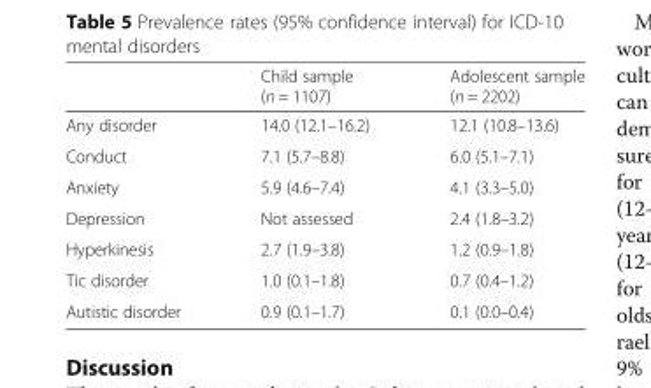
<table><thead><tr><td></td><td>Child sample (n = 1107)</td><td>Adolescent sample (n = 2202)</td></tr></thead><tbody><tr><td>Any disorder</td><td>14.0 (12.1–16.2)</td><td>12.1 (10.8–13.6)</td></tr><tr><td>Conduct</td><td>7.1 (5.7–8.8)</td><td>6.0 (5.1–7.1)</td></tr><tr><td>Anxiety</td><td>5.9 (4.6–7.4)</td><td>4.1 (3.3–5.0)</td></tr><tr><td>Depression</td><td>Not assessed</td><td>2.4 (1.8–3.2)</td></tr><tr><td>Hyperkinesis</td><td>2.7 (1.9–3.8)</td><td>1.2 (0.9–1.8)</td></tr><tr><td>Tic disorder</td><td>1.0 (0.1–1.8)</td><td>0.7 (0.4–1.2)</td></tr><tr><td>Autistic disorder</td><td>0.9 (0.1–1.7)</td><td>0.1 (0.0–0.4)</td></tr></tbody></table>